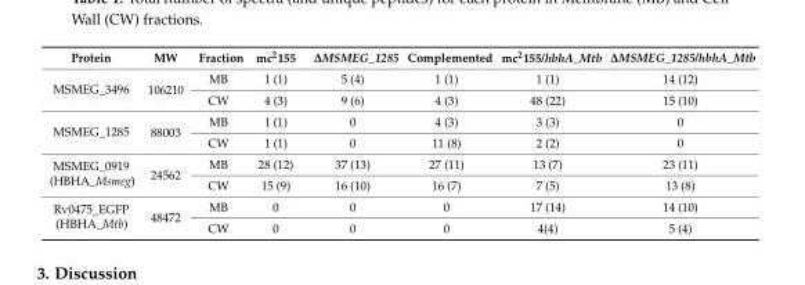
<table><thead><tr><td>Protein</td><td>MW</td><td>Fraction</td><td>mc<sup>2</sup>155</td><td>∆MSMEG_1285</td><td>Complemented</td><td>mc<sup>2</sup>155/hbhA_Mtb</td><td>∆MSMEG_1285/hbhA_Mtb</td></tr></thead><tbody><tr><td rowspan="2">MSMEG_3496</td><td rowspan="2">106210</td><td>MB</td><td>1 (1)</td><td>5 (4)</td><td>1 (1)</td><td>1 (1)</td><td>14 (12)</td></tr><tr><td>CW</td><td>4 (3)</td><td>9 (6)</td><td>4 (3)</td><td>48 (22)</td><td>15 (10)</td></tr><tr><td rowspan="2">MSMEG_1285</td><td rowspan="2">88003</td><td>MB</td><td>1 (1)</td><td>0</td><td>4 (3)</td><td>3 (3)</td><td>0</td></tr><tr><td>CW</td><td>1 (1)</td><td>0</td><td>11 (8)</td><td>2 (2)</td><td>0</td></tr><tr><td rowspan="2">MSMEG_0919 (HBHA_Msmeg)</td><td rowspan="2">24562</td><td>MB</td><td>28 (12)</td><td>37 (13)</td><td>27 (11)</td><td>13 (7)</td><td>23 (11)</td></tr><tr><td>CW</td><td>15 (9)</td><td>16 (10)</td><td>16 (7)</td><td>7 (5)</td><td>13 (8)</td></tr><tr><td rowspan="2">Rv0475_EGFP (HBHA_Mtb)</td><td rowspan="2">48472</td><td>MB</td><td>0</td><td>0</td><td>0</td><td>17 (14)</td><td>14 (10)</td></tr><tr><td>CW</td><td>0</td><td>0</td><td>0</td><td>4(4)</td><td>5 (4)</td></tr></tbody></table>